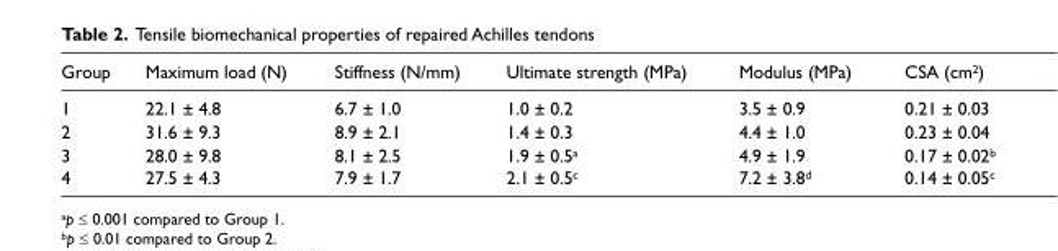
<table><thead><tr><td>Group</td><td>Maximum load (N)</td><td>Stiffness (N/mm)</td><td>Ultimate strength (MPa)</td><td>Modulus (MPa)</td><td>CSA (cm<sup>2</sup>)</td></tr></thead><tbody><tr><td>1</td><td>22.1 ± 4.8</td><td>6.7 ± 1.0</td><td>1.0 ± 0.2</td><td>3.5 ± 0.9</td><td>0.21 ± 0.03</td></tr><tr><td>2</td><td>31.6 ± 9.3</td><td>8.9 ± 2.1</td><td>1.4 ± 0.3</td><td>4.4 ± 1.0</td><td>0.23 ± 0.04</td></tr><tr><td>3</td><td>28.0 ± 9.8</td><td>8.1 ± 2.5</td><td>1.9 ± 0.5<sup>a</sup></td><td>4.9 ± 1.9</td><td>0.17 ± 0.02<sup>b</sup></td></tr><tr><td>4</td><td>27.5 ± 4.3</td><td>7.9 ± 1.7</td><td>2.1 ± 0.5<sup>c</sup></td><td>7.2 ± 3.8<sup>d</sup></td><td>0.14 ± 0.05<sup>c</sup></td></tr></tbody></table>